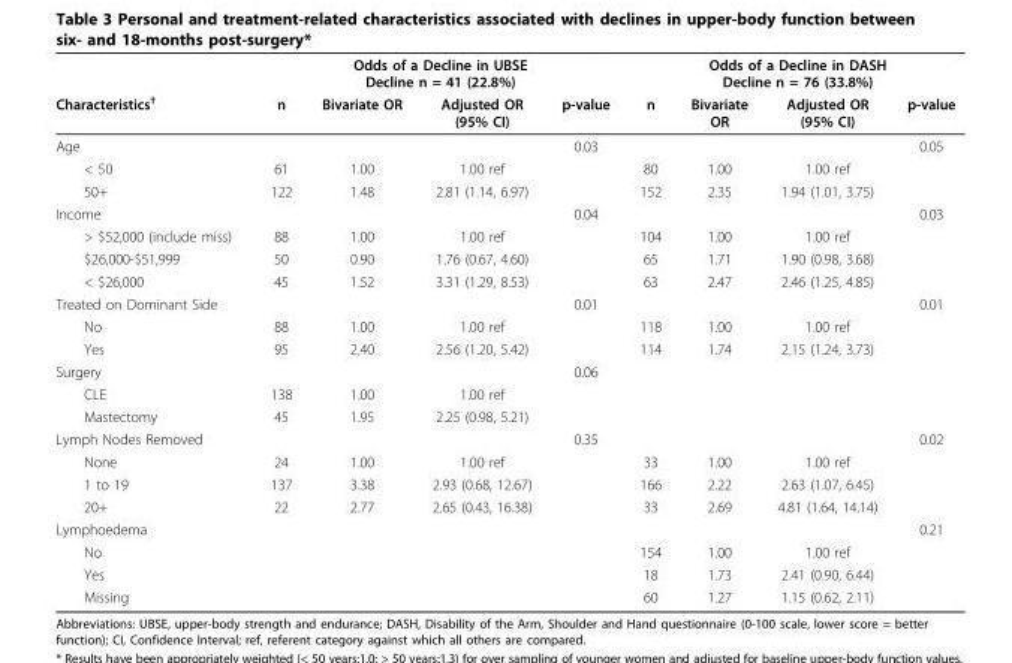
<table><thead><tr><td rowspan="2">Characteristics<sup>†</sup></td><td colspan="4">Odds of a Decline in UBSE Decline n = 41 (22.8%)</td><td colspan="4">Odds of a Decline in DASH Decline n = 76 (33.8%)</td></tr><tr><td>n</td><td>Bivariate OR</td><td>Adjusted OR (95% CI)</td><td>p-value</td><td>n</td><td>Bivariate OR</td><td>Adjusted OR (95% CI)</td><td>p-value</td></tr></thead><tbody><tr><td>Age</td><td></td><td></td><td></td><td>0.03</td><td></td><td></td><td></td><td>0.05</td></tr><tr><td>&lt; 50</td><td>61</td><td>1.00</td><td>1.00 ref</td><td></td><td>80</td><td>1.00</td><td>1.00 ref</td><td></td></tr><tr><td>50+</td><td>122</td><td>1.48</td><td>2.81 (1.14, 6.97)</td><td></td><td>152</td><td>2.35</td><td>1.94 (1.01, 3.75)</td><td></td></tr><tr><td>Income</td><td></td><td></td><td></td><td>0.04</td><td></td><td></td><td></td><td>0.03</td></tr><tr><td>&gt; $52,000 (include miss)</td><td>88</td><td>1.00</td><td>1.00 ref</td><td></td><td>104</td><td>1.00</td><td>1.00 ref</td><td></td></tr><tr><td>$26,000-$51,999</td><td>50</td><td>0.90</td><td>1.76 (0.67, 4.60)</td><td></td><td>65</td><td>1.71</td><td>1.90 (0.98, 3.68)</td><td></td></tr><tr><td>&lt; $26,000</td><td>45</td><td>1.52</td><td>3.31 (1.29, 8.53)</td><td></td><td>63</td><td>2.47</td><td>2.46 (1.25, 4.85)</td><td></td></tr><tr><td>Treated on Dominant Side</td><td></td><td></td><td></td><td>0.01</td><td></td><td></td><td></td><td>0.01</td></tr><tr><td>No</td><td>88</td><td>1.00</td><td>1.00 ref</td><td></td><td>118</td><td>1.00</td><td>1.00 ref</td><td></td></tr><tr><td>Yes</td><td>95</td><td>2.40</td><td>2.56 (1.20, 5.42)</td><td></td><td>114</td><td>1.74</td><td>2.15 (1.24, 3.73)</td><td></td></tr><tr><td>Surgery</td><td></td><td></td><td></td><td>0.06</td><td></td><td></td><td></td><td></td></tr><tr><td>CLE</td><td>138</td><td>1.00</td><td>1.00 ref</td><td></td><td></td><td></td><td></td><td></td></tr><tr><td>Mastectomy</td><td>45</td><td>1.95</td><td>2.25 (0.98, 5.21)</td><td></td><td></td><td></td><td></td><td></td></tr><tr><td>Lymph Nodes Removed</td><td></td><td></td><td></td><td>0.35</td><td></td><td></td><td></td><td>0.02</td></tr><tr><td>None</td><td>24</td><td>1.00</td><td>1.00 ref</td><td></td><td>33</td><td>1.00</td><td>1.00 ref</td><td></td></tr><tr><td>1 to 19</td><td>137</td><td>3.38</td><td>2.93 (0.68, 12.67)</td><td></td><td>166</td><td>2.22</td><td>2.63 (1.07, 6.45)</td><td></td></tr><tr><td>20+</td><td>22</td><td>2.77</td><td>2.65 (0.43, 16.38)</td><td></td><td>33</td><td>2.69</td><td>4.81 (1.64, 14.14)</td><td></td></tr><tr><td>Lymphoedema</td><td></td><td></td><td></td><td></td><td></td><td></td><td></td><td>0.21</td></tr><tr><td>No</td><td></td><td></td><td></td><td></td><td>154</td><td>1.00</td><td>1.00 ref</td><td></td></tr><tr><td>Yes</td><td></td><td></td><td></td><td></td><td>18</td><td>1.73</td><td>2.41 (0.90, 6.44)</td><td></td></tr><tr><td>Missing</td><td></td><td></td><td></td><td></td><td>60</td><td>1.27</td><td>1.15 (0.62, 2.11)</td><td></td></tr></tbody></table>